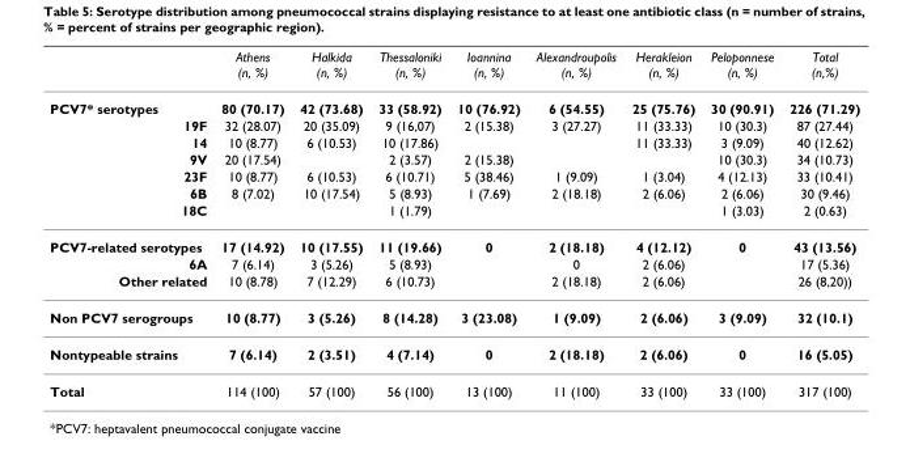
<table><thead><tr><td></td><td>Athens (n, %)</td><td>Halkida (n, %)</td><td>Thessaloniki (n, %)</td><td>Ioannina (n, %)</td><td>Alexandroupolis (n, %)</td><td>Herakleion (n, %)</td><td>Peloponnese (n, %)</td><td>Total (n,%)</td></tr></thead><tbody><tr><td>PCV7* serotypes</td><td>80 (70.17)</td><td>42 (73.68)</td><td>33 (58.92)</td><td>10 (76.92)</td><td>6 (54.55)</td><td>25 (75.76)</td><td>30 (90.91)</td><td>226 (71.29)</td></tr><tr><td>19F</td><td>32 (28.07)</td><td>20 (35.09)</td><td>9 (16,07)</td><td>2 (15.38)</td><td>3 (27.27)</td><td>11 (33.33)</td><td>10 (30.3)</td><td>87 (27.44)</td></tr><tr><td>14</td><td>10 (8.77)</td><td>6 (10.53)</td><td>10 (17.86)</td><td></td><td></td><td>11 (33.33)</td><td>3 (9.09)</td><td>40 (12.62)</td></tr><tr><td>9V</td><td>20 (17.54)</td><td></td><td>2 (3.57)</td><td>2 (15.38)</td><td></td><td></td><td>10 (30.3)</td><td>34 (10.73)</td></tr><tr><td>23F</td><td>10 (8.77)</td><td>6 (10.53)</td><td>6 (10.71)</td><td>5 (38.46)</td><td>1 (9.09)</td><td>1 (3.04)</td><td>4 (12.13)</td><td>33 (10.41)</td></tr><tr><td>6B</td><td>8 (7.02)</td><td>10 (17.54)</td><td>5 (8.93)</td><td>1 (7.69)</td><td>2 (18.18)</td><td>2 (6.06)</td><td>2 (6.06)</td><td>30 (9.46)</td></tr><tr><td>18C</td><td></td><td></td><td>1 (1.79)</td><td></td><td></td><td></td><td>1 (3.03)</td><td>2 (0.63)</td></tr><tr><td>PCV7-related serotypes</td><td>17 (14.92)</td><td>10 (17.55)</td><td>11 (19.66)</td><td>0</td><td>2 (18.18)</td><td>4 (12.12)</td><td>0</td><td>43 (13.56)</td></tr><tr><td>6A</td><td>7 (6.14)</td><td>3 (5.26)</td><td>5 (8.93)</td><td></td><td>0</td><td>2 (6.06)</td><td></td><td>17 (5.36)</td></tr><tr><td>Other related</td><td>10 (8.78)</td><td>7 (12.29)</td><td>6 (10.73)</td><td></td><td>2 (18.18)</td><td>2 (6.06)</td><td></td><td>26 (8,20))</td></tr><tr><td>Non PCV7 serogroups</td><td>10 (8.77)</td><td>3 (5.26)</td><td>8 (14.28)</td><td>3 (23.08)</td><td>1 (9.09)</td><td>2 (6.06)</td><td>3 (9.09)</td><td>32 (10.1)</td></tr><tr><td>Nontypeable strains</td><td>7 (6.14)</td><td>2 (3.51)</td><td>4 (7.14)</td><td>0</td><td>2 (18.18)</td><td>2 (6.06)</td><td>0</td><td>16 (5.05)</td></tr><tr><td>Total</td><td>114 (100)</td><td>57 (100)</td><td>56 (100)</td><td>13 (100)</td><td>11 (100)</td><td>33 (100)</td><td>33 (100)</td><td>317 (100)</td></tr></tbody></table>